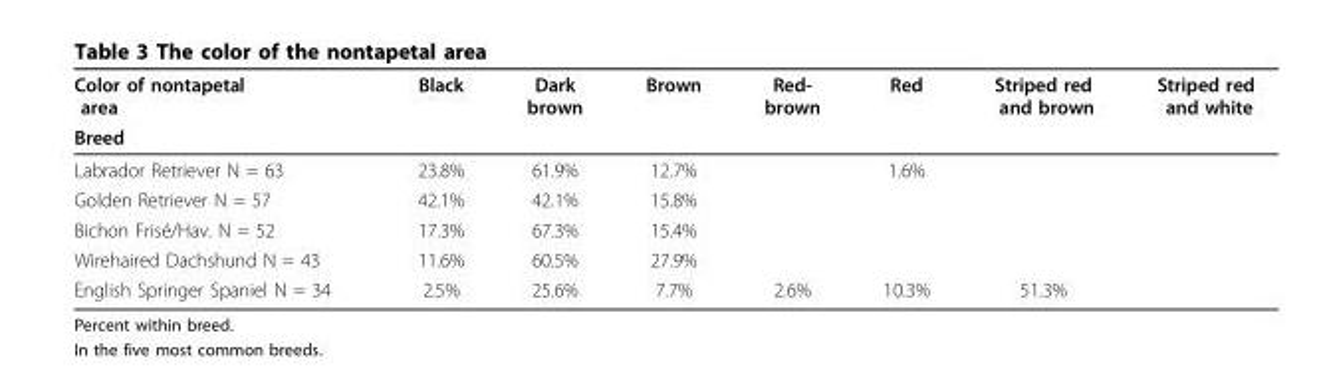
<table><thead><tr><td>Color of nontapetal area</td><td>Black</td><td>Dark brown</td><td>Brown</td><td>Red- brown</td><td>Red</td><td>Striped red and brown</td><td>Striped red and white</td></tr><tr><td colspan="8">Breed</td></tr></thead><tbody><tr><td>Labrador Retriever N = 63</td><td>23.8%</td><td>61.9%</td><td>12.7%</td><td></td><td>1.6%</td><td></td><td></td></tr><tr><td>Golden Retriever N = 57</td><td>42.1%</td><td>42.1%</td><td>15.8%</td><td></td><td></td><td></td><td></td></tr><tr><td>Bichon Frisé/Hav. N = 52</td><td>17.3%</td><td>67.3%</td><td>15.4%</td><td></td><td></td><td></td><td></td></tr><tr><td>Wirehaired Dachshund N = 43</td><td>11.6%</td><td>60.5%</td><td>27.9%</td><td></td><td></td><td></td><td></td></tr><tr><td>English Springer Spaniel N = 34</td><td>2.5%</td><td>25.6%</td><td>7.7%</td><td>2.6%</td><td>10.3%</td><td>51.3%</td><td></td></tr></tbody></table>